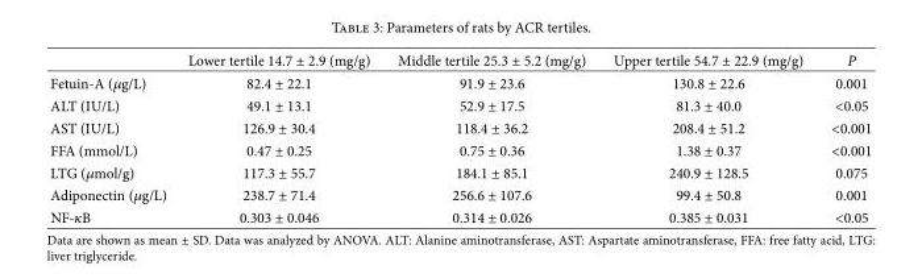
<table><thead><tr><td></td><td>Lower tertile 14.7 ± 2.9 (mg/g)</td><td>Middle tertile 25.3 ± 5.2 (mg/g)</td><td>Upper tertile 54.7 ± 22.9 (mg/g)</td><td>P</td></tr></thead><tbody><tr><td>Fetuin-A (𝜇𝜇g/L)</td><td>82.4 ± 22.1</td><td>91.9 ± 23.6</td><td>130.8 ± 22.6</td><td>0.001</td></tr><tr><td>ALT (IU/L)</td><td>49.1 ± 13.1</td><td>52.9 ± 17.5</td><td>81.3 ± 40.0</td><td>&lt;0.05</td></tr><tr><td>AST (IU/L)</td><td>126.9 ± 30.4</td><td>118.4 ± 36.2</td><td>208.4 ± 51.2</td><td>&lt;0.001</td></tr><tr><td>FFA (mmol/L)</td><td>0.47 ± 0.25</td><td>0.75 ± 0.36</td><td>1.38 ± 0.37</td><td>&lt;0.001</td></tr><tr><td>LTG (𝜇𝜇mol/g)</td><td>117.3 ± 55.7</td><td>184.1 ± 85.1</td><td>240.9 ± 128.5</td><td>0.075</td></tr><tr><td>Adiponectin (𝜇𝜇g/L)</td><td>238.7 ± 71.4</td><td>256.6 ± 107.6</td><td>99.4 ± 50.8</td><td>0.001</td></tr><tr><td>NF-𝜅𝜅B</td><td>0.303 ± 0.046</td><td>0.314 ± 0.026</td><td>0.385 ± 0.031</td><td>&lt;0.05</td></tr></tbody></table>